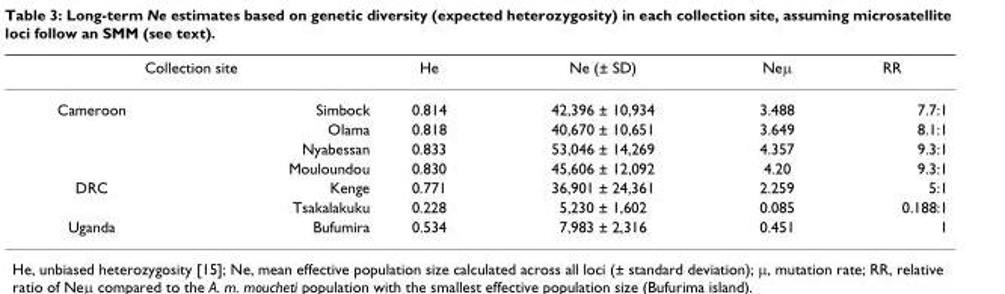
<table><thead><tr><td colspan="2">Collection site</td><td rowspan="2">He 0.814</td><td rowspan="2">Ne (± SD) 42,396 ± 10,934</td><td rowspan="2">Neμ 3.488</td><td rowspan="2">RR 7.7:1</td></tr><tr><td>Cameroon</td><td>Simbock</td></tr></thead><tbody><tr><td></td><td>Olama</td><td>0.818</td><td>40,670 ± 10,651</td><td>3.649</td><td>8.1:1</td></tr><tr><td></td><td>Nyabessan</td><td>0.833</td><td>53,046 ± 14,269</td><td>4.357</td><td>9.3:1</td></tr><tr><td></td><td>Mouloundou</td><td>0.830</td><td>45,606 ± 12,092</td><td>4.20</td><td>9.3:1</td></tr><tr><td rowspan="2">DRC</td><td>Kenge</td><td>0.771</td><td>36,901 ± 24,361</td><td>2.259</td><td>5:1</td></tr><tr><td>Tsakalakuku</td><td>0.228</td><td>5,230 ± 1,602</td><td>0.085</td><td>0.188:1</td></tr><tr><td>Uganda</td><td>Bufumira</td><td>0.534</td><td>7,983 ± 2,316</td><td>0.451</td><td>1</td></tr></tbody></table>